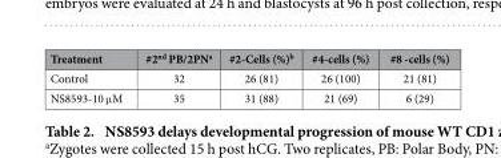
<table><thead><tr><td>Treatment</td><td>#2<sup>nd</sup> PB/2PN<sup>a</sup></td><td>#2-Cells (%)<sup>b</sup></td><td>#4-cells (%)</td><td>#8 -cells (%)</td></tr></thead><tbody><tr><td>Control</td><td>32</td><td>26 (81)</td><td>26 (100)</td><td>21 (81)</td></tr><tr><td>NS8593-10 μ M</td><td>35</td><td>31 (88)</td><td>21 (69)</td><td>6 (29)</td></tr></tbody></table>